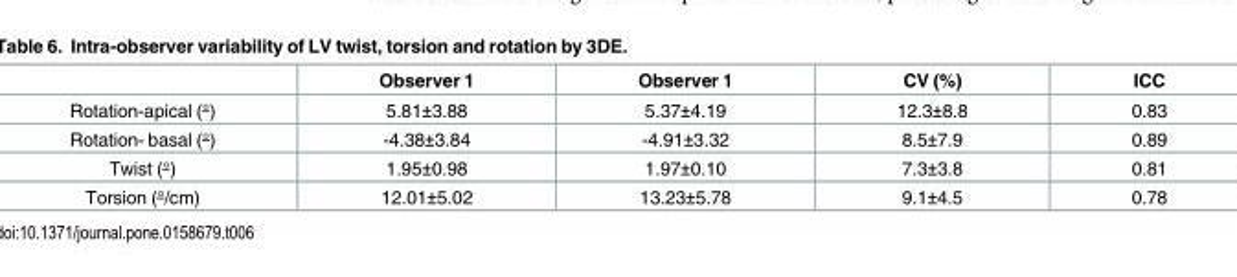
<table><thead><tr><td></td><td>Observer 1</td><td>Observer 1</td><td>CV (%)</td><td>ICC</td></tr></thead><tbody><tr><td>Rotation-apical (°)</td><td>5.81±3.88</td><td>5.37±4.19</td><td>12.3±8.8</td><td>0.83</td></tr><tr><td>Rotation- basal (°)</td><td>-4.38±3.84</td><td>-4.91±3.32</td><td>8.5±7.9</td><td>0.89</td></tr><tr><td>Twist (°)</td><td>1.95±0.98</td><td>1.97±0.10</td><td>7.3±3.8</td><td>0.81</td></tr><tr><td>Torsion (°/cm)</td><td>12.01±5.02</td><td>13.23±5.78</td><td>9.1±4.5</td><td>0.78</td></tr></tbody></table>